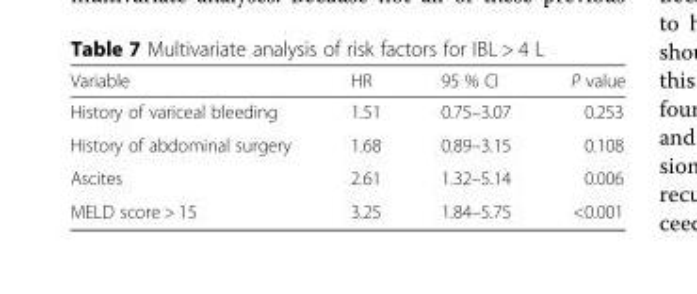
<table><thead><tr><td>Variable</td><td>HR</td><td>95 % CI</td><td>P value</td></tr></thead><tbody><tr><td>History of variceal bleeding</td><td>1.51</td><td>0.75–3.07</td><td>0.253</td></tr><tr><td>History of abdominal surgery</td><td>1.68</td><td>0.89–3.15</td><td>0.108</td></tr><tr><td>Ascites</td><td>2.61</td><td>1.32–5.14</td><td>0.006</td></tr><tr><td>MELD score &gt; 15</td><td>3.25</td><td>1.84–5.75</td><td>&lt;0.001</td></tr></tbody></table>